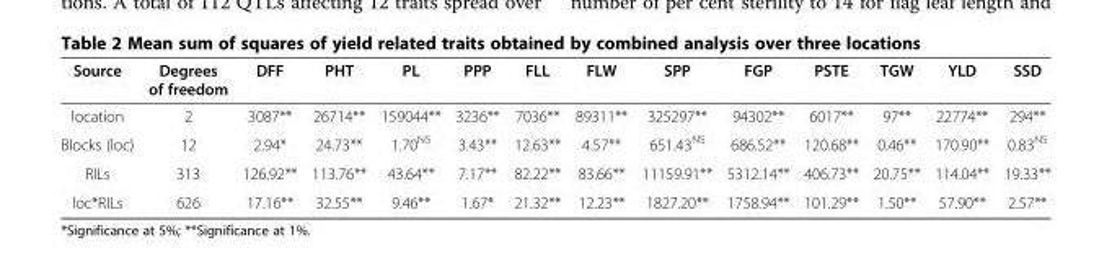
<table><thead><tr><td>Source</td><td>Degrees of freedom</td><td>DFF</td><td>PHT</td><td>PL</td><td>PPP</td><td>FLL</td><td>FLW</td><td>SPP</td><td>FGP</td><td>PSTE</td><td>TGW</td><td>YLD</td><td>SSD</td></tr></thead><tbody><tr><td>location</td><td>2</td><td>3087**</td><td>26714**</td><td>159044**</td><td>3236**</td><td>7036**</td><td>89311**</td><td>325297**</td><td>94302**</td><td>6017**</td><td>97**</td><td>22774**</td><td>294**</td></tr><tr><td>Blocks (loc)</td><td>12</td><td>2.94*</td><td>24.73**</td><td>1.70<sup>NS</sup></td><td>3.43**</td><td>12.63**</td><td>4.57**</td><td>651.43<sup>NS</sup></td><td>686.52**</td><td>120.68**</td><td>0.46**</td><td>170.90**</td><td>0.83<sup>NS</sup></td></tr><tr><td>RILs</td><td>313</td><td>126.92**</td><td>113.76**</td><td>43.64**</td><td>7.17**</td><td>82.22**</td><td>83.66**</td><td>11159.91**</td><td>5312.14**</td><td>406.73**</td><td>20.75**</td><td>114.04**</td><td>19.33**</td></tr><tr><td>loc*RILs</td><td>626</td><td>17.16**</td><td>32.55**</td><td>9.46**</td><td>1.67*</td><td>21.32**</td><td>12.23**</td><td>1827.20**</td><td>1758.94**</td><td>101.29**</td><td>1.50**</td><td>57.90**</td><td>2.57**</td></tr></tbody></table>